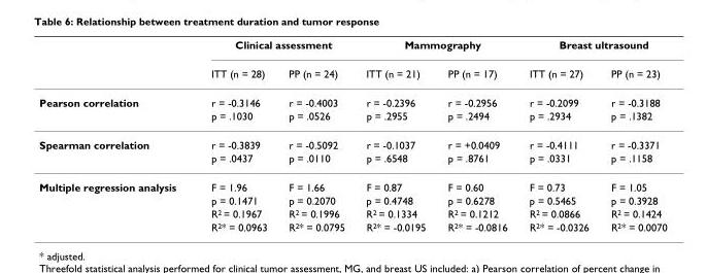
<table><thead><tr><td rowspan="2"></td><td colspan="2">Clinical assessment</td><td colspan="2">Mammography</td><td colspan="2">Breast ultrasound</td></tr><tr><td>ITT (n = 28)</td><td>PP (n = 24)</td><td>ITT (n = 21)</td><td>PP (n = 17)</td><td>ITT (n = 27)</td><td>PP (n = 23)</td></tr></thead><tbody><tr><td rowspan="2">Pearson correlation</td><td>r = -0.3146</td><td>r = -0.4003</td><td>r = -0.2396</td><td>r = -0.2956</td><td>r = -0.2099</td><td>r = -0.3188</td></tr><tr><td>p = .1030</td><td>p = .0526</td><td>p = .2955</td><td>p = .2494</td><td>p = .2934</td><td>p = .1382</td></tr><tr><td rowspan="2">Spearman correlation</td><td>r = -0.3839</td><td>r = -0.5092</td><td>r = -0.1037</td><td>r = +0.0409</td><td>r = -0.4111</td><td>r = -0.3371</td></tr><tr><td>p = .0437</td><td>p = .0110</td><td>p = .6548</td><td>p = .8761</td><td>p = .0331</td><td>p = .1158</td></tr><tr><td rowspan="4">Multiple regression analysis</td><td>F = 1.96</td><td>F = 1.66</td><td>F = 0.87</td><td>F = 0.60</td><td>F = 0.73</td><td>F = 1.05</td></tr><tr><td>p = 0.1471</td><td>p = 0.2070</td><td>p = 0.4748</td><td>p = 0.6278</td><td>p = 0.5465</td><td>p = 0.3928</td></tr><tr><td>R<sup>2</sup> = 0.1967</td><td>R<sup>2</sup> = 0.1996</td><td>R<sup>2</sup> = 0.1334</td><td>R<sup>2</sup> = 0.1212</td><td>R<sup>2</sup> = 0.0866</td><td>R<sup>2</sup> = 0.1424</td></tr><tr><td>R<sup>2</sup>* = 0.0963</td><td>R<sup>2</sup>* = 0.0795</td><td>R<sup>2</sup>* = -0.0195</td><td>R<sup>2</sup>* = -0.0816</td><td>R<sup>2</sup>* = -0.0326</td><td>R<sup>2</sup>* = 0.0070</td></tr></tbody></table>